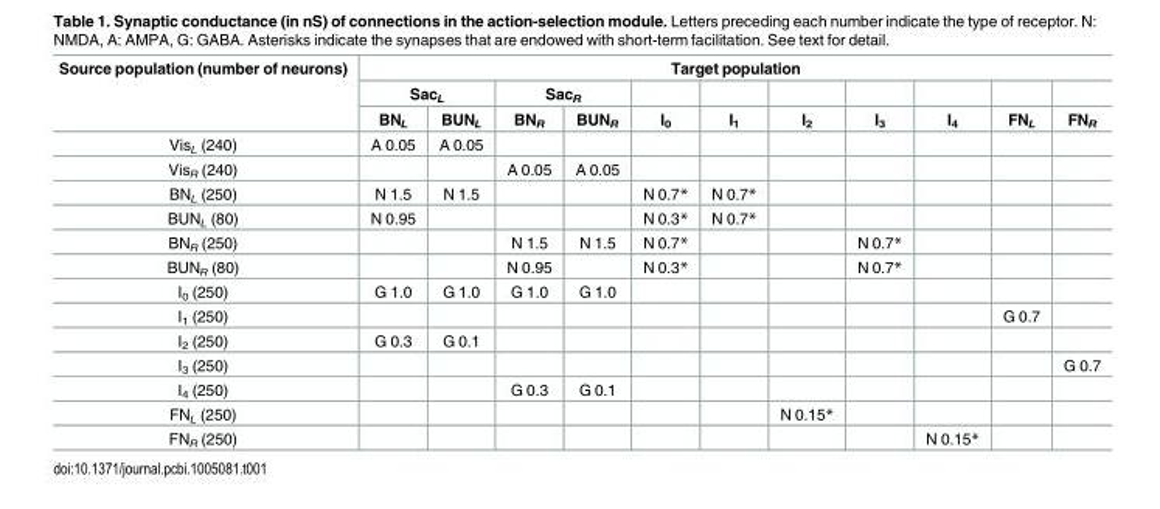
<table><thead><tr><td rowspan="3">Source population (number of neurons)</td><td colspan="11">Target population</td></tr><tr><td colspan="2">Sac<sub>L</sub></td><td colspan="2">Sac<sub>R</sub></td><td rowspan="2">I<sub>0</sub></td><td rowspan="2">I<sub>1</sub></td><td rowspan="2">I<sub>2</sub></td><td rowspan="2">I<sub>3</sub></td><td rowspan="2">I<sub>4</sub></td><td rowspan="2">FN<sub>L</sub></td><td rowspan="2">FN<sub>R</sub></td></tr><tr><td>BN<sub>L</sub></td><td>BUN<sub>L</sub></td><td>BN<sub>R</sub></td><td>BUN<sub>R</sub></td></tr></thead><tbody><tr><td>Vis<sub>L</sub> (240)</td><td>A 0.05</td><td>A 0.05</td><td></td><td></td><td></td><td></td><td></td><td></td><td></td><td></td><td></td></tr><tr><td>Vis<sub>R</sub> (240)</td><td></td><td></td><td>A 0.05</td><td>A 0.05</td><td></td><td></td><td></td><td></td><td></td><td></td><td></td></tr><tr><td>BN<sub>L</sub> (250)</td><td>N 1.5</td><td>N 1.5</td><td></td><td></td><td>N 0.7*</td><td>N 0.7*</td><td></td><td></td><td></td><td></td><td></td></tr><tr><td>BUN<sub>L</sub> (80)</td><td>N 0.95</td><td></td><td></td><td></td><td>N 0.3*</td><td>N 0.7*</td><td></td><td></td><td></td><td></td><td></td></tr><tr><td>BN<sub>R</sub> (250)</td><td></td><td></td><td>N 1.5</td><td>N 1.5</td><td>N 0.7*</td><td></td><td></td><td>N 0.7*</td><td></td><td></td><td></td></tr><tr><td>BUN<sub>R</sub> (80)</td><td></td><td></td><td>N 0.95</td><td></td><td>N 0.3*</td><td></td><td></td><td>N 0.7*</td><td></td><td></td><td></td></tr><tr><td>I<sub>0</sub> (250)</td><td>G 1.0</td><td>G 1.0</td><td>G 1.0</td><td>G 1.0</td><td></td><td></td><td></td><td></td><td></td><td></td><td></td></tr><tr><td>I<sub>1</sub> (250)</td><td></td><td></td><td></td><td></td><td></td><td></td><td></td><td></td><td></td><td>G 0.7</td><td></td></tr><tr><td>I<sub>2</sub> (250)</td><td>G 0.3</td><td>G 0.1</td><td></td><td></td><td></td><td></td><td></td><td></td><td></td><td></td><td></td></tr><tr><td>I<sub>3</sub> (250)</td><td></td><td></td><td></td><td></td><td></td><td></td><td></td><td></td><td></td><td></td><td>G 0.7</td></tr><tr><td>I<sub>4</sub> (250)</td><td></td><td></td><td>G 0.3</td><td>G 0.1</td><td></td><td></td><td></td><td></td><td></td><td></td><td></td></tr><tr><td>FN<sub>L</sub> (250)</td><td></td><td></td><td></td><td></td><td></td><td></td><td>N 0.15*</td><td></td><td></td><td></td><td></td></tr><tr><td>FN<sub>R</sub> (250)</td><td></td><td></td><td></td><td></td><td></td><td></td><td></td><td></td><td>N 0.15*</td><td></td><td></td></tr></tbody></table>